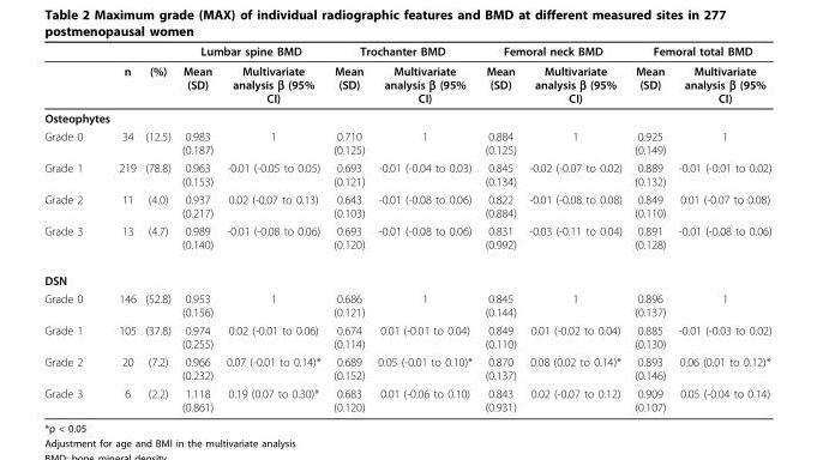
<table><thead><tr><td rowspan="2"></td><td rowspan="2">n</td><td rowspan="2">(%)</td><td colspan="2">Lumbar spine BMD</td><td colspan="2">Trochanter BMD</td><td colspan="2">Femoral neck BMD</td><td colspan="2">Femoral total BMD</td></tr><tr><td>Mean (SD)</td><td>Multivariate analysis β (95% CI)</td><td>Mean (SD)</td><td>Multivariate analysis β (95% CI)</td><td>Mean (SD)</td><td>Multivariate analysis β (95% CI)</td><td>Mean (SD)</td><td>Multivariate analysis β (95% CI)</td></tr></thead><tbody><tr><td colspan="11">Osteophytes</td></tr><tr><td>Grade 0</td><td>34</td><td>(12.5)</td><td>0.983 (0.187)</td><td>1</td><td>0.710 (0.125)</td><td>1</td><td>0.884 (0.125)</td><td>1</td><td>0.925 (0.149)</td><td>1</td></tr><tr><td>Grade 1</td><td>219</td><td>(78.8)</td><td>0.963 (0.153)</td><td>-0.01 (-0.05 to 0.05)</td><td>0.693 (0.121)</td><td>-0.01 (-0.04 to 0.03)</td><td>0.845 (0.134)</td><td>-0.02 (-0.07 to 0.02)</td><td>0.889 (0.132)</td><td>-0.01 (-0.01 to 0.02)</td></tr><tr><td>Grade 2</td><td>11</td><td>(4.0)</td><td>0.937 (0.217)</td><td>0.02 (-0.07 to 0.13)</td><td>0.643 (0.103)</td><td>-0.01 (-0.08 to 0.06)</td><td>0.822 (0.884)</td><td>-0.01 (-0.08 to 0.08)</td><td>0.849 (0.110)</td><td>0.01 (-0.07 to 0.08)</td></tr><tr><td>Grade 3</td><td>13</td><td>(4.7)</td><td>0.989 (0.140)</td><td>-0.01 (-0.08 to 0.06)</td><td>0.693 (0.120)</td><td>-0.01 (-0.08 to 0.06)</td><td>0.831 (0.992)</td><td>-0.03 (-0.11 to 0.04)</td><td>0.891 (0.128)</td><td>-0.01 (-0.08 to 0.06)</td></tr><tr><td colspan="11">DSN</td></tr><tr><td>Grade 0</td><td>146</td><td>(52.8)</td><td>0.953 (0.156)</td><td>1</td><td>0.686 (0.121)</td><td>1</td><td>0.845 (0.144)</td><td>1</td><td>0.896 (0.137)</td><td>1</td></tr><tr><td>Grade 1</td><td>105</td><td>(37.8)</td><td>0.974 (0.255)</td><td>0.02 (-0.01 to 0.06)</td><td>0.674 (0.114)</td><td>0.01 (-0.01 to 0.04)</td><td>0.849 (0.110)</td><td>0.01 (-0.02 to 0.04)</td><td>0.885 (0.130)</td><td>-0.01 (-0.03 to 0.02)</td></tr><tr><td>Grade 2</td><td>20</td><td>(7.2)</td><td>0.966 (0.232)</td><td>0.07 (-0.01 to 0.14)*</td><td>0.689 (0.152)</td><td>0.05 (-0.01 to 0.10)*</td><td>0.870 (0.137)</td><td>0.08 (0.02 to 0.14)*</td><td>0.893 (0.146)</td><td>0.06 (0.01 to 0.12)*</td></tr><tr><td>Grade 3</td><td>6</td><td>(2.2)</td><td>1.118 (0.861)</td><td>0.19 (0.07 to 0.30)*</td><td>0.683 (0.120)</td><td>0.01 (-0.06 to 0.10)</td><td>0.843 (0.931)</td><td>0.02 (-0.07 to 0.12)</td><td>0.909 (0.107)</td><td>0.05 (-0.04 to 0.14)</td></tr></tbody></table>